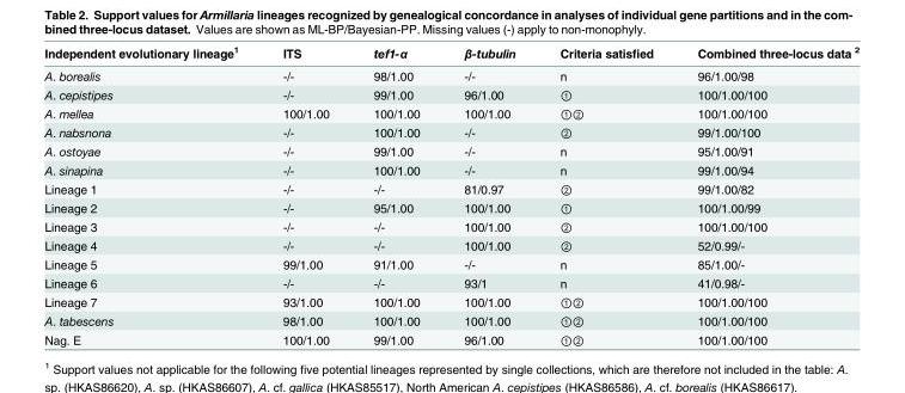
<table><thead><tr><td>Independent evolutionary lineage<sup>1</sup></td><td>ITS</td><td>tef1-α</td><td>β-tubulin</td><td>Criteria satisfied</td><td>Combined three-locus data <sup>2</sup></td></tr></thead><tbody><tr><td>A. borealis</td><td>-/-</td><td>98/1.00</td><td>-/-</td><td>n</td><td>96/1.00/98</td></tr><tr><td>A. cepistipes</td><td>-/-</td><td>99/1.00</td><td>96/1.00</td><td>①</td><td>100/1.00/100</td></tr><tr><td>A. mellea</td><td>100/1.00</td><td>100/1.00</td><td>100/1.00</td><td>①②</td><td>100/1.00/100</td></tr><tr><td>A. nabsnona</td><td>-/-</td><td>100/1.00</td><td>-/-</td><td>②</td><td>99/1.00/100</td></tr><tr><td>A. ostoyae</td><td>-/-</td><td>99/1.00</td><td>-/-</td><td>n</td><td>95/1.00/91</td></tr><tr><td>A. sinapina</td><td>-/-</td><td>100/1.00</td><td>-/-</td><td>n</td><td>99/1.00/94</td></tr><tr><td>Lineage 1</td><td>-/-</td><td>-/-</td><td>81/0.97</td><td>②</td><td>99/1.00/82</td></tr><tr><td>Lineage 2</td><td>-/-</td><td>95/1.00</td><td>100/1.00</td><td>①</td><td>100/1.00/99</td></tr><tr><td>Lineage 3</td><td>-/-</td><td>-/-</td><td>100/1.00</td><td>②</td><td>100/1.00/100</td></tr><tr><td>Lineage 4</td><td>-/-</td><td>-/-</td><td>100/1.00</td><td>②</td><td>52/0.99/-</td></tr><tr><td>Lineage 5</td><td>99/1.00</td><td>91/1.00</td><td>-/-</td><td>n</td><td>85/1.00/-</td></tr><tr><td>Lineage 6</td><td>-/-</td><td>-/-</td><td>93/1</td><td>n</td><td>41/0.98/-</td></tr><tr><td>Lineage 7</td><td>93/1.00</td><td>100/1.00</td><td>100/1.00</td><td>①②</td><td>100/1.00/100</td></tr><tr><td>A. tabescens</td><td>98/1.00</td><td>100/1.00</td><td>100/1.00</td><td>①②</td><td>100/1.00/100</td></tr><tr><td>Nag. E</td><td>100/1.00</td><td>99/1.00</td><td>96/1.00</td><td>①②</td><td>100/1.00/100</td></tr></tbody></table>